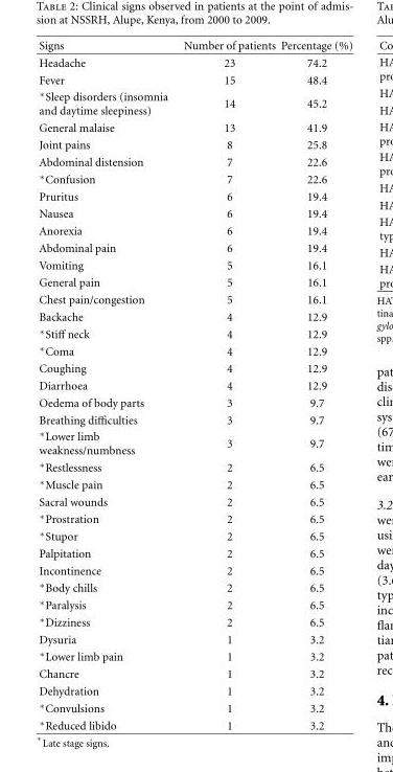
<table><thead><tr><td>Signs</td><td>Number of patients</td><td>Percentage (%)</td></tr></thead><tbody><tr><td>Headache</td><td>23</td><td>74.2</td></tr><tr><td>Fever</td><td>15</td><td>48.4</td></tr><tr><td>∗Sleep disorders (insomnia and daytime sleepiness)</td><td>14</td><td>45.2</td></tr><tr><td>General malaise</td><td>13</td><td>41.9</td></tr><tr><td>Joint pains</td><td>8</td><td>25.8</td></tr><tr><td>Abdominal distension</td><td>7</td><td>22.6</td></tr><tr><td>∗Confusion</td><td>7</td><td>22.6</td></tr><tr><td>Pruritus</td><td>6</td><td>19.4</td></tr><tr><td>Nausea</td><td>6</td><td>19.4</td></tr><tr><td>Anorexia</td><td>6</td><td>19.4</td></tr><tr><td>Abdominal pain</td><td>6</td><td>19.4</td></tr><tr><td>Vomiting</td><td>5</td><td>16.1</td></tr><tr><td>General pain</td><td>5</td><td>16.1</td></tr><tr><td>Chest pain/congestion</td><td>5</td><td>16.1</td></tr><tr><td>Backache</td><td>4</td><td>12.9</td></tr><tr><td>∗Stiff neck</td><td>4</td><td>12.9</td></tr><tr><td>∗Coma</td><td>4</td><td>12.9</td></tr><tr><td>Coughing</td><td>4</td><td>12.9</td></tr><tr><td>Diarrhoea</td><td>4</td><td>12.9</td></tr><tr><td>Oedema of body parts</td><td>3</td><td>9.7</td></tr><tr><td>Breathing difficulties</td><td>3</td><td>9.7</td></tr><tr><td>∗Lower limb weakness/numbness</td><td>3</td><td>9.7</td></tr><tr><td>∗Restlessness</td><td>2</td><td>6.5</td></tr><tr><td>∗Muscle pain</td><td>2</td><td>6.5</td></tr><tr><td>Sacral wounds</td><td>2</td><td>6.5</td></tr><tr><td>∗Prostration</td><td>2</td><td>6.5</td></tr><tr><td>∗Stupor</td><td>2</td><td>6.5</td></tr><tr><td>Palpitation</td><td>2</td><td>6.5</td></tr><tr><td>Incontinence</td><td>2</td><td>6.5</td></tr><tr><td>∗Body chills</td><td>2</td><td>6.5</td></tr><tr><td>∗Paralysis</td><td>2</td><td>6.5</td></tr><tr><td>∗Dizziness</td><td>2</td><td>6.5</td></tr><tr><td>Dysuria</td><td>1</td><td>3.2</td></tr><tr><td>∗Lower limb pain</td><td>1</td><td>3.2</td></tr><tr><td>Chancre</td><td>1</td><td>3.2</td></tr><tr><td>Dehydration</td><td>1</td><td>3.2</td></tr><tr><td>∗Convulsions</td><td>1</td><td>3.2</td></tr><tr><td>∗Reduced libido</td><td>1</td><td>3.2</td></tr></tbody></table>